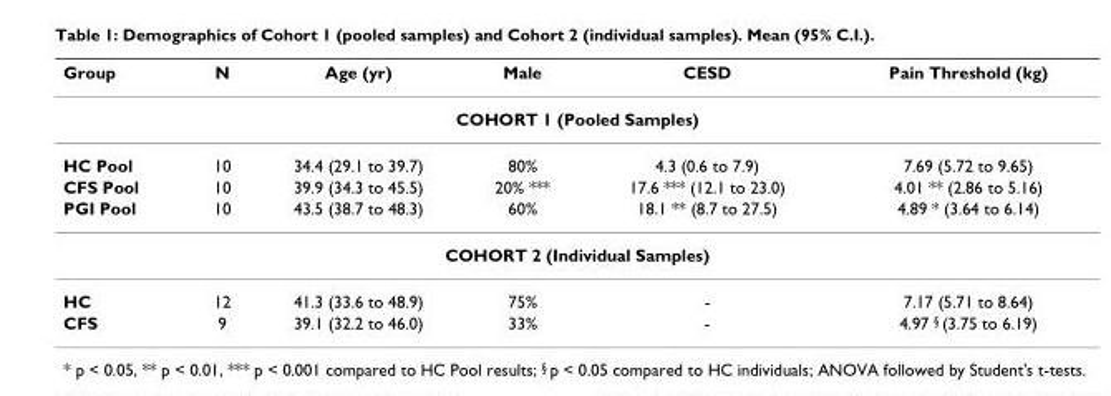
<table><thead><tr><td>Group</td><td>N</td><td>Age (yr)</td><td>Male</td><td>CESD</td><td>Pain Threshold (kg)</td></tr></thead><tbody><tr><td colspan="6">COHORT 1 (Pooled Samples)</td></tr><tr><td>HC Pool</td><td>10</td><td>34.4 (29.1 to 39.7)</td><td>80%</td><td>4.3 (0.6 to 7.9)</td><td>7.69 (5.72 to 9.65)</td></tr><tr><td>CFS Pool</td><td>10</td><td>39.9 (34.3 to 45.5)</td><td>20% ***</td><td>17.6 *** (12.1 to 23.0)</td><td>4.01 ** (2.86 to 5.16)</td></tr><tr><td>PGI Pool</td><td>10</td><td>43.5 (38.7 to 48.3)</td><td>60%</td><td>18.1 ** (8.7 to 27.5)</td><td>4.89 * (3.64 to 6.14)</td></tr><tr><td colspan="6">COHORT 2 (Individual Samples)</td></tr><tr><td>HC</td><td>12</td><td>41.3 (33.6 to 48.9)</td><td>75%</td><td>-</td><td>7.17 (5.71 to 8.64)</td></tr><tr><td>CFS</td><td>9</td><td>39.1 (32.2 to 46.0)</td><td>33%</td><td>-</td><td>4.97 <sup>§</sup> (3.75 to 6.19)</td></tr></tbody></table>